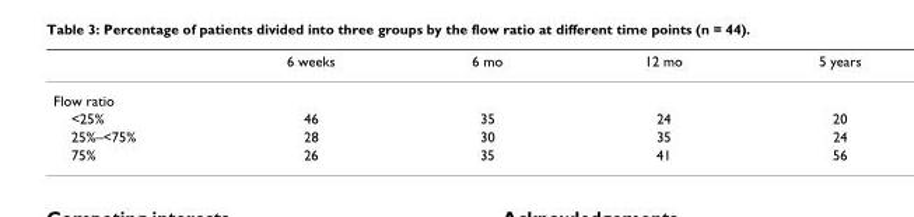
<table><thead><tr><td></td><td>6 weeks</td><td>6 mo</td><td>12 mo</td><td>5 years</td></tr></thead><tbody><tr><td colspan="5">Flow ratio</td></tr><tr><td>&lt;25%</td><td>46</td><td>35</td><td>24</td><td>20</td></tr><tr><td>25%–&lt;75%</td><td>28</td><td>30</td><td>35</td><td>24</td></tr><tr><td>75%</td><td>26</td><td>35</td><td>41</td><td>56</td></tr></tbody></table>